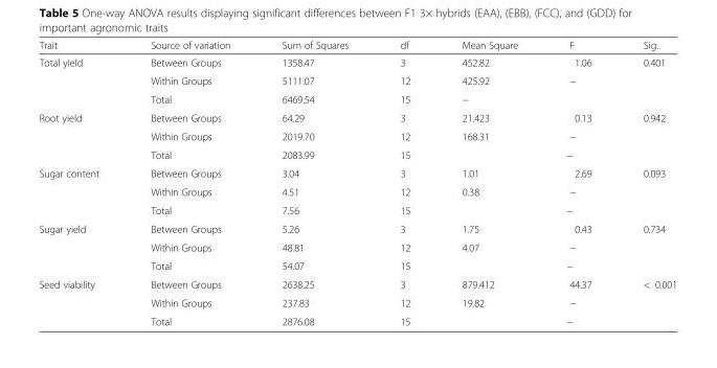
<table><thead><tr><td>Trait</td><td>Source of variation</td><td>Sum of Squares</td><td>df</td><td>Mean Square</td><td>F</td><td>Sig.</td></tr></thead><tbody><tr><td rowspan="3">Total yield</td><td>Between Groups</td><td>1358.47</td><td>3</td><td>452.82</td><td>1.06</td><td>0.401</td></tr><tr><td>Within Groups</td><td>5111.07</td><td>12</td><td>425.92</td><td colspan="2">−</td></tr><tr><td>Total</td><td>6469.54</td><td>15</td><td colspan="3">−</td></tr><tr><td rowspan="3">Root yield</td><td>Between Groups</td><td>64.29</td><td>3</td><td>21.423</td><td>0.13</td><td>0.942</td></tr><tr><td>Within Groups</td><td>2019.70</td><td>12</td><td>168.31</td><td colspan="2">−</td></tr><tr><td>Total</td><td>2083.99</td><td>15</td><td colspan="3">−</td></tr><tr><td rowspan="3">Sugar content</td><td>Between Groups</td><td>3.04</td><td>3</td><td>1.01</td><td>2.69</td><td>0.093</td></tr><tr><td>Within Groups</td><td>4.51</td><td>12</td><td>0.38</td><td colspan="2">−</td></tr><tr><td>Total</td><td>7.56</td><td>15</td><td colspan="3">−</td></tr><tr><td rowspan="3">Sugar yield</td><td>Between Groups</td><td>5.26</td><td>3</td><td>1.75</td><td>0.43</td><td>0.734</td></tr><tr><td>Within Groups</td><td>48.81</td><td>12</td><td>4.07</td><td colspan="2">−</td></tr><tr><td>Total</td><td>54.07</td><td>15</td><td colspan="3">−</td></tr><tr><td rowspan="3">Seed viability</td><td>Between Groups</td><td>2638.25</td><td>3</td><td>879.412</td><td>44.37</td><td>&lt; 0.001</td></tr><tr><td>Within Groups</td><td>237.83</td><td>12</td><td>19.82</td><td colspan="2">−</td></tr><tr><td>Total</td><td>2876.08</td><td>15</td><td colspan="3">−</td></tr></tbody></table>